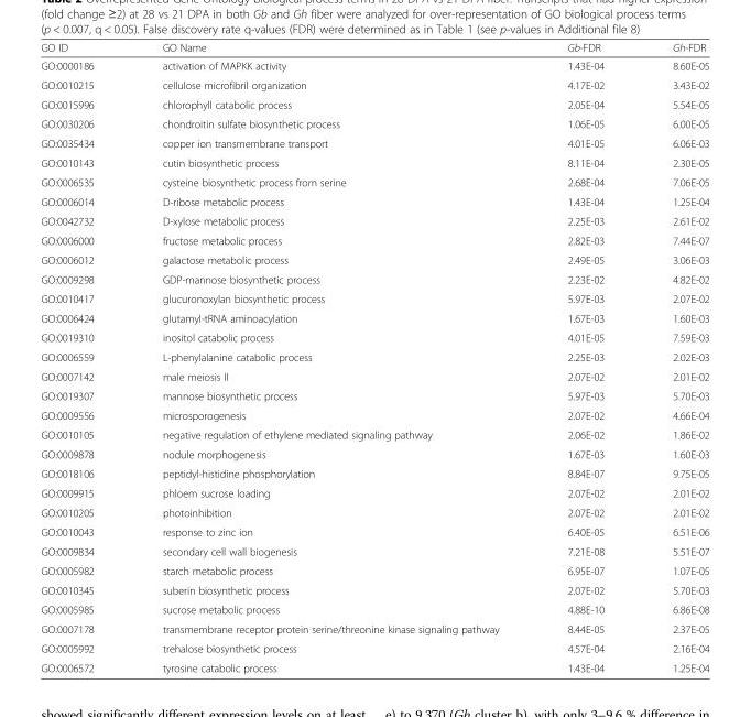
<table><thead><tr><td>GO ID</td><td>GO Name</td><td>Gb-FDR</td><td>Gh-FDR</td></tr></thead><tbody><tr><td>GO:0000186</td><td>activation of MAPKK activity</td><td>1.43E-04</td><td>8.60E-05</td></tr><tr><td>GO:0010215</td><td>cellulose microfibril organization</td><td>4.17E-02</td><td>3.43E-02</td></tr><tr><td>GO:0015996</td><td>chlorophyll catabolic process</td><td>2.05E-04</td><td>5.54E-05</td></tr><tr><td>GO:0030206</td><td>chondroitin sulfate biosynthetic process</td><td>1.06E-05</td><td>6.00E-05</td></tr><tr><td>GO:0035434</td><td>copper ion transmembrane transport</td><td>4.01E-05</td><td>6.06E-03</td></tr><tr><td>GO:0010143</td><td>cutin biosynthetic process</td><td>8.11E-04</td><td>2.30E-05</td></tr><tr><td>GO:0006535</td><td>cysteine biosynthetic process from serine</td><td>2.68E-04</td><td>7.06E-05</td></tr><tr><td>GO:0006014</td><td>D-ribose metabolic process</td><td>1.43E-04</td><td>1.25E-04</td></tr><tr><td>GO:0042732</td><td>D-xylose metabolic process</td><td>2.25E-03</td><td>2.61E-02</td></tr><tr><td>GO:0006000</td><td>fructose metabolic process</td><td>2.82E-03</td><td>7.44E-07</td></tr><tr><td>GO:0006012</td><td>galactose metabolic process</td><td>2.49E-05</td><td>3.06E-03</td></tr><tr><td>GO:0009298</td><td>GDP-mannose biosynthetic process</td><td>2.23E-02</td><td>4.82E-02</td></tr><tr><td>GO:0010417</td><td>glucuronoxylan biosynthetic process</td><td>5.97E-03</td><td>2.07E-02</td></tr><tr><td>GO:0006424</td><td>glutamyl-tRNA aminoacylation</td><td>1.67E-03</td><td>1.60E-03</td></tr><tr><td>GO:0019310</td><td>inositol catabolic process</td><td>4.01E-05</td><td>7.59E-03</td></tr><tr><td>GO:0006559</td><td>L-phenylalanine catabolic process</td><td>2.25E-03</td><td>2.02E-03</td></tr><tr><td>GO:0007142</td><td>male meiosis II</td><td>2.07E-02</td><td>2.01E-02</td></tr><tr><td>GO:0019307</td><td>mannose biosynthetic process</td><td>5.97E-03</td><td>5.70E-03</td></tr><tr><td>GO:0009556</td><td>microsporogenesis</td><td>2.07E-02</td><td>4.66E-04</td></tr><tr><td>GO:0010105</td><td>negative regulation of ethylene mediated signaling pathway</td><td>2.06E-02</td><td>1.86E-02</td></tr><tr><td>GO:0009878</td><td>nodule morphogenesis</td><td>1.67E-03</td><td>1.60E-03</td></tr><tr><td>GO:0018106</td><td>peptidyl-histidine phosphorylation</td><td>8.84E-07</td><td>9.75E-05</td></tr><tr><td>GO:0009915</td><td>phloem sucrose loading</td><td>2.07E-02</td><td>2.01E-02</td></tr><tr><td>GO:0010205</td><td>photoinhibition</td><td>2.07E-02</td><td>2.01E-02</td></tr><tr><td>GO:0010043</td><td>response to zinc ion</td><td>6.40E-05</td><td>6.51E-06</td></tr><tr><td>GO:0009834</td><td>secondary cell wall biogenesis</td><td>7.21E-08</td><td>5.51E-07</td></tr><tr><td>GO:0005982</td><td>starch metabolic process</td><td>6.95E-07</td><td>1.07E-05</td></tr><tr><td>GO:0010345</td><td>suberin biosynthetic process</td><td>2.07E-02</td><td>5.70E-03</td></tr><tr><td>GO:0005985</td><td>sucrose metabolic process</td><td>4.88E-10</td><td>6.86E-08</td></tr><tr><td>GO:0007178</td><td>transmembrane receptor protein serine/threonine kinase signaling pathway</td><td>8.44E-05</td><td>2.37E-05</td></tr><tr><td>GO:0005992</td><td>trehalose biosynthetic process</td><td>4.57E-04</td><td>2.16E-04</td></tr><tr><td>GO:0006572</td><td>tyrosine catabolic process</td><td>1.43E-04</td><td>1.25E-04</td></tr></tbody></table>